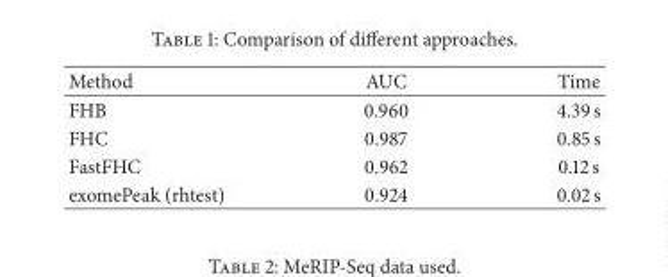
<table><thead><tr><td>Method</td><td>AUC</td><td>Time</td></tr></thead><tbody><tr><td>FHB</td><td>0.960</td><td>4.39 s</td></tr><tr><td>FHC</td><td>0.987</td><td>0.85 s</td></tr><tr><td>FastFHC</td><td>0.962</td><td>0.12 s</td></tr><tr><td>exomePeak (rhtest)</td><td>0.924</td><td>0.02 s</td></tr></tbody></table>